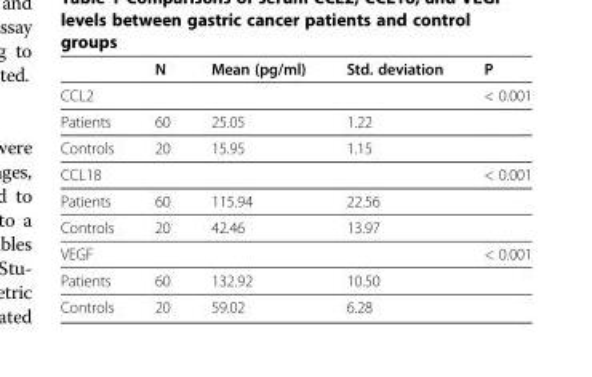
<table><thead><tr><td></td><td>N</td><td>Mean (pg/ml)</td><td>Std. deviation</td><td>P</td></tr></thead><tbody><tr><td>CCL2</td><td></td><td></td><td></td><td>&lt; 0.001</td></tr><tr><td>Patients</td><td>60</td><td>25.05</td><td>1.22</td><td></td></tr><tr><td>Controls</td><td>20</td><td>15.95</td><td>1.15</td><td></td></tr><tr><td>CCL18</td><td></td><td></td><td></td><td>&lt; 0.001</td></tr><tr><td>Patients</td><td>60</td><td>115.94</td><td>22.56</td><td></td></tr><tr><td>Controls</td><td>20</td><td>42.46</td><td>13.97</td><td></td></tr><tr><td>VEGF</td><td></td><td></td><td></td><td>&lt; 0.001</td></tr><tr><td>Patients</td><td>60</td><td>132.92</td><td>10.50</td><td></td></tr><tr><td>Controls</td><td>20</td><td>59.02</td><td>6.28</td><td></td></tr></tbody></table>